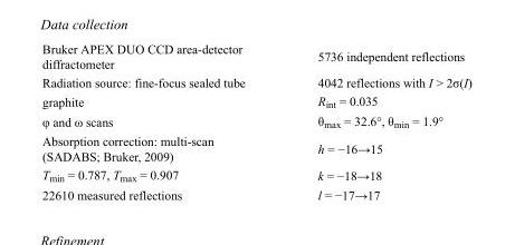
<table><tbody><tr><td>Bruker APEX DUO CCD area-detector diffractometer</td><td>5736 independent reflections</td></tr><tr><td>Radiation source: fine-focus sealed tube</td><td>4042 reflections with I &gt; 2σ(I)</td></tr><tr><td>graphite</td><td>R<sub>int</sub> = 0.035</td></tr><tr><td>φ and ω scans</td><td>θ<sub>max</sub> = 32.6°, θ<sub>min</sub> = 1.9°</td></tr><tr><td>Absorption correction: multi-scan (SADABS; Bruker, 2009)</td><td>h = −16→15</td></tr><tr><td>T<sub>min</sub> = 0.787, T<sub>max</sub> = 0.907</td><td>k = −18→18</td></tr><tr><td>22610 measured reflections</td><td>l = −17→17</td></tr></tbody></table>